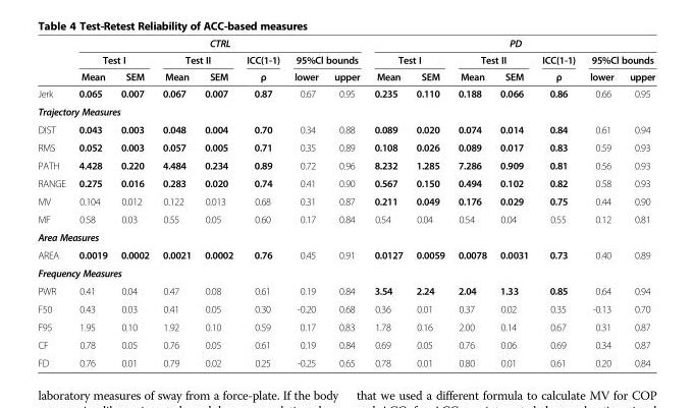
<table><thead><tr><td rowspan="3"></td><td colspan="7">CTRL</td><td colspan="7">PD</td></tr><tr><td colspan="2">Test I</td><td colspan="2">Test II</td><td rowspan="2">ICC(1-1) ρ</td><td colspan="2">95%Cl bounds</td><td colspan="2">Test I</td><td colspan="2">Test II</td><td rowspan="2">ICC(1-1) ρ</td><td colspan="2">95%Cl bounds</td></tr><tr><td>Mean</td><td>SEM</td><td>Mean</td><td>SEM</td><td>lower</td><td>upper</td><td>Mean</td><td>SEM</td><td>Mean</td><td>SEM</td><td>lower</td><td>upper</td></tr></thead><tbody><tr><td>Jerk</td><td>0.065</td><td>0.007</td><td>0.067</td><td>0.007</td><td>0.87</td><td>0.67</td><td>0.95</td><td>0.235</td><td>0.110</td><td>0.188</td><td>0.066</td><td>0.86</td><td>0.66</td><td>0.95</td></tr><tr><td colspan="15">Trajectory Measures</td></tr><tr><td>DIST</td><td>0.043</td><td>0.003</td><td>0.048</td><td>0.004</td><td>0.70</td><td>0.34</td><td>0.88</td><td>0.089</td><td>0.020</td><td>0.074</td><td>0.014</td><td>0.84</td><td>0.61</td><td>0.94</td></tr><tr><td>RMS</td><td>0.052</td><td>0.003</td><td>0.057</td><td>0.005</td><td>0.71</td><td>0.35</td><td>0.89</td><td>0.108</td><td>0.026</td><td>0.089</td><td>0.017</td><td>0.83</td><td>0.59</td><td>0.93</td></tr><tr><td>PATH</td><td>4.428</td><td>0.220</td><td>4.484</td><td>0.234</td><td>0.89</td><td>0.72</td><td>0.96</td><td>8.232</td><td>1.285</td><td>7.286</td><td>0.909</td><td>0.81</td><td>0.56</td><td>0.93</td></tr><tr><td>RANGE</td><td>0.275</td><td>0.016</td><td>0.283</td><td>0.020</td><td>0.74</td><td>0.41</td><td>0.90</td><td>0.567</td><td>0.150</td><td>0.494</td><td>0.102</td><td>0.82</td><td>0.58</td><td>0.93</td></tr><tr><td>MV</td><td>0.104</td><td>0.012</td><td>0.122</td><td>0.013</td><td>0.68</td><td>0.31</td><td>0.87</td><td>0.211</td><td>0.049</td><td>0.176</td><td>0.029</td><td>0.75</td><td>0.44</td><td>0.90</td></tr><tr><td>MF</td><td>0.58</td><td>0.03</td><td>0.55</td><td>0.05</td><td>0.60</td><td>0.17</td><td>0.84</td><td>0.54</td><td>0.04</td><td>0.54</td><td>0.04</td><td>0.55</td><td>0.12</td><td>0.81</td></tr><tr><td colspan="15">Area Measures</td></tr><tr><td>AREA</td><td>0.0019</td><td>0.0002</td><td>0.0021</td><td>0.0002</td><td>0.76</td><td>0.45</td><td>0.91</td><td>0.0127</td><td>0.0059</td><td>0.0078</td><td>0.0031</td><td>0.73</td><td>0.40</td><td>0.89</td></tr><tr><td colspan="15">Frequency Measures</td></tr><tr><td>PWR</td><td>0.41</td><td>0.04</td><td>0.47</td><td>0.08</td><td>0.61</td><td>0.19</td><td>0.84</td><td>3.54</td><td>2.24</td><td>2.04</td><td>1.33</td><td>0.85</td><td>0.64</td><td>0.94</td></tr><tr><td>F50</td><td>0.43</td><td>0.03</td><td>0.41</td><td>0.05</td><td>0.30</td><td>-0.20</td><td>0.68</td><td>0.36</td><td>0.01</td><td>0.37</td><td>0.02</td><td>0.35</td><td>-0.13</td><td>0.70</td></tr><tr><td>F95</td><td>1.95</td><td>0.10</td><td>1.92</td><td>0.10</td><td>0.59</td><td>0.17</td><td>0.83</td><td>1.78</td><td>0.16</td><td>2.00</td><td>0.14</td><td>0.67</td><td>0.31</td><td>0.87</td></tr><tr><td>CF</td><td>0.78</td><td>0.05</td><td>0.76</td><td>0.05</td><td>0.61</td><td>0.19</td><td>0.84</td><td>0.69</td><td>0.05</td><td>0.76</td><td>0.06</td><td>0.69</td><td>0.34</td><td>0.87</td></tr><tr><td>FD</td><td>0.76</td><td>0.01</td><td>0.79</td><td>0.02</td><td>0.25</td><td>-0.25</td><td>0.65</td><td>0.78</td><td>0.01</td><td>0.80</td><td>0.01</td><td>0.61</td><td>0.20</td><td>0.84</td></tr></tbody></table>